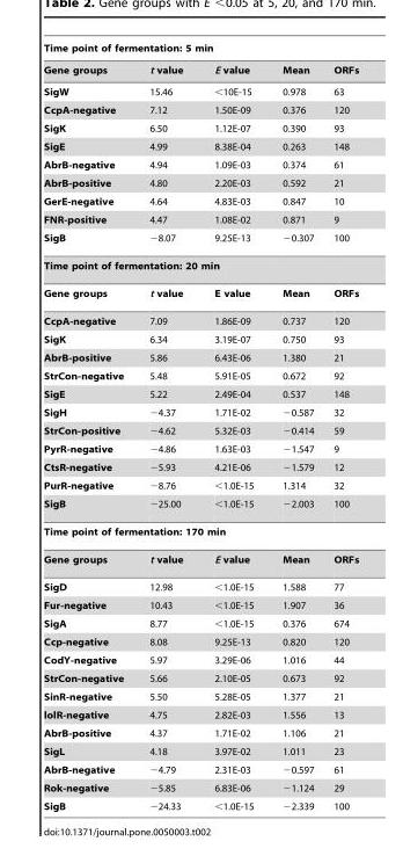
<table><thead><tr><td colspan="5">Time point of fermentation: 5 min</td></tr><tr><td>Gene groups</td><td>t value</td><td>E value</td><td>Mean</td><td>ORFs</td></tr></thead><tbody><tr><td>SigW</td><td>15.46</td><td>&lt;10E-15</td><td>0.978</td><td>63</td></tr><tr><td>CcpA-negative</td><td>7.12</td><td>1.50E-09</td><td>0.376</td><td>120</td></tr><tr><td>SigK</td><td>6.50</td><td>1.12E-07</td><td>0.390</td><td>93</td></tr><tr><td>SigE</td><td>4.99</td><td>8.38E-04</td><td>0.263</td><td>148</td></tr><tr><td>AbrB-negative</td><td>4.94</td><td>1.09E-03</td><td>0.374</td><td>61</td></tr><tr><td>AbrB-positive</td><td>4.80</td><td>2.20E-03</td><td>0.592</td><td>21</td></tr><tr><td>GerE-negative</td><td>4.64</td><td>4.83E-03</td><td>0.847</td><td>10</td></tr><tr><td>FNR-positive</td><td>4.47</td><td>1.08E-02</td><td>0.871</td><td>9</td></tr><tr><td>SigB</td><td>−8.07</td><td>9.25E-13</td><td>−0.307</td><td>100</td></tr><tr><td colspan="5">Time point of fermentation: 20 min</td></tr><tr><td>Gene groups</td><td>t value</td><td>E value</td><td>Mean</td><td>ORFs</td></tr><tr><td>CcpA-negative</td><td>7.09</td><td>1.86E-09</td><td>0.737</td><td>120</td></tr><tr><td>SigK</td><td>6.34</td><td>3.19E-07</td><td>0.750</td><td>93</td></tr><tr><td>AbrB-positive</td><td>5.86</td><td>6.43E-06</td><td>1.380</td><td>21</td></tr><tr><td>StrCon-negative</td><td>5.48</td><td>5.91E-05</td><td>0.672</td><td>92</td></tr><tr><td>SigE</td><td>5.22</td><td>2.49E-04</td><td>0.537</td><td>148</td></tr><tr><td>SigH</td><td>−4.37</td><td>1.71E-02</td><td>−0.587</td><td>32</td></tr><tr><td>StrCon-positive</td><td>−4.62</td><td>5.32E-03</td><td>−0.414</td><td>59</td></tr><tr><td>PyrR-negative</td><td>−4.86</td><td>1.63E-03</td><td>−1.547</td><td>9</td></tr><tr><td>CtsR-negative</td><td>−5.93</td><td>4.21E-06</td><td>−1.579</td><td>12</td></tr><tr><td>PurR-negative</td><td>−8.76</td><td>&lt;1.0E-15</td><td>1.314</td><td>32</td></tr><tr><td>SigB</td><td>−25.00</td><td>&lt;1.0E-15</td><td>−2.003</td><td>100</td></tr><tr><td colspan="5">Time point of fermentation: 170 min</td></tr><tr><td>Gene groups</td><td>t value</td><td>E value</td><td>Mean</td><td>ORFs</td></tr><tr><td>SigD</td><td>12.98</td><td>&lt;1.0E-15</td><td>1.588</td><td>77</td></tr><tr><td>Fur-negative</td><td>10.43</td><td>&lt;1.0E-15</td><td>1.907</td><td>36</td></tr><tr><td>SigA</td><td>8.77</td><td>&lt;1.0E-15</td><td>0.376</td><td>674</td></tr><tr><td>Ccp-negative</td><td>8.08</td><td>9.25E-13</td><td>0.820</td><td>120</td></tr><tr><td>CodY-negative</td><td>5.97</td><td>3.29E-06</td><td>1.016</td><td>44</td></tr><tr><td>StrCon-negative</td><td>5.66</td><td>2.10E-05</td><td>0.673</td><td>92</td></tr><tr><td>SinR-negative</td><td>5.50</td><td>5.28E-05</td><td>1.377</td><td>21</td></tr><tr><td>lolR-negative</td><td>4.75</td><td>2.82E-03</td><td>1.556</td><td>13</td></tr><tr><td>AbrB-positive</td><td>4.37</td><td>1.71E-02</td><td>1.106</td><td>21</td></tr><tr><td>SigL</td><td>4.18</td><td>3.97E-02</td><td>1.011</td><td>23</td></tr><tr><td>AbrB-negative</td><td>−4.79</td><td>2.31E-03</td><td>−0.597</td><td>61</td></tr><tr><td>Rok-negative</td><td>−5.85</td><td>6.83E-06</td><td>−1.124</td><td>29</td></tr><tr><td>SigB</td><td>−24.33</td><td>&lt;1.0E-15</td><td>−2.339</td><td>100</td></tr></tbody></table>